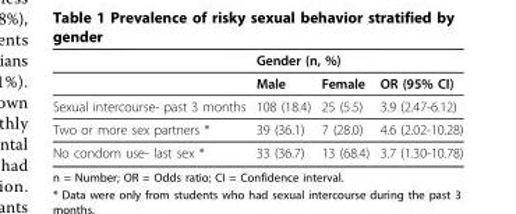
<table><thead><tr><td rowspan="2"></td><td colspan="3">Gender (n, %)</td></tr><tr><td>Male</td><td>Female</td><td>OR (95% CI)</td></tr></thead><tbody><tr><td>Sexual intercourse- past 3 months</td><td>108 (18.4)</td><td>25 (5.5)</td><td>3.9 (2.47-6.12)</td></tr><tr><td>Two or more sex partners *</td><td>39 (36.1)</td><td>7 (28.0)</td><td>4.6 (2.02-10.28)</td></tr><tr><td>No condom use- last sex *</td><td>33 (36.7)</td><td>13 (68.4)</td><td>3.7 (1.30-10.78)</td></tr></tbody></table>